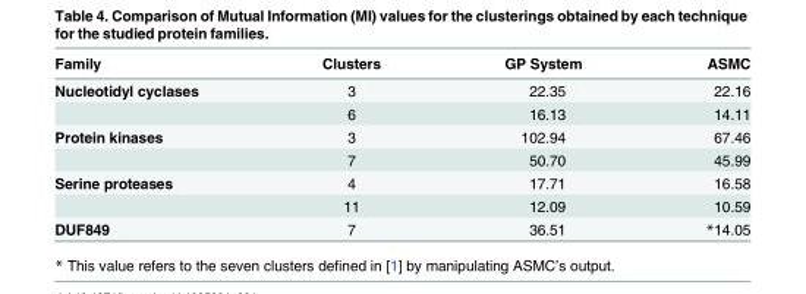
<table><thead><tr><td>Family</td><td>Clusters</td><td>GP System</td><td>ASMC</td></tr></thead><tbody><tr><td rowspan="2">Nucleotidyl cyclases</td><td>3</td><td>22.35</td><td>22.16</td></tr><tr><td>6</td><td>16.13</td><td>14.11</td></tr><tr><td rowspan="2">Protein kinases</td><td>3</td><td>102.94</td><td>67.46</td></tr><tr><td>7</td><td>50.70</td><td>45.99</td></tr><tr><td rowspan="2">Serine proteases</td><td>4</td><td>17.71</td><td>16.58</td></tr><tr><td>11</td><td>12.09</td><td>10.59</td></tr><tr><td>DUF849</td><td>7</td><td>36.51</td><td>*14.05</td></tr></tbody></table>